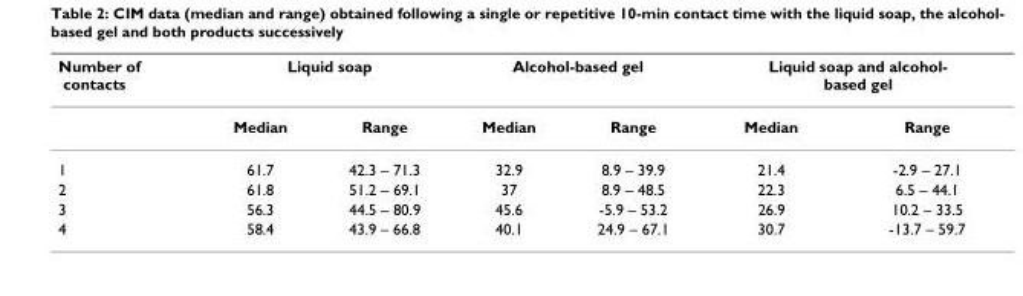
<table><thead><tr><td rowspan="2">Number of contacts</td><td colspan="2">Liquid soap</td><td colspan="2">Alcohol-based gel</td><td colspan="2">Liquid soap and alcohol- based gel</td></tr><tr><td>Median</td><td>Range</td><td>Median</td><td>Range</td><td>Median</td><td>Range</td></tr></thead><tbody><tr><td>1</td><td>61.7</td><td>42.3 – 71.3</td><td>32.9</td><td>8.9 – 39.9</td><td>21.4</td><td>-2.9 – 27.1</td></tr><tr><td>2</td><td>61.8</td><td>51.2 – 69.1</td><td>37</td><td>8.9 – 48.5</td><td>22.3</td><td>6.5 – 44.1</td></tr><tr><td>3</td><td>56.3</td><td>44.5 – 80.9</td><td>45.6</td><td>-5.9 – 53.2</td><td>26.9</td><td>10.2 – 33.5</td></tr><tr><td>4</td><td>58.4</td><td>43.9 – 66.8</td><td>40.1</td><td>24.9 – 67.1</td><td>30.7</td><td>-13.7 – 59.7</td></tr></tbody></table>